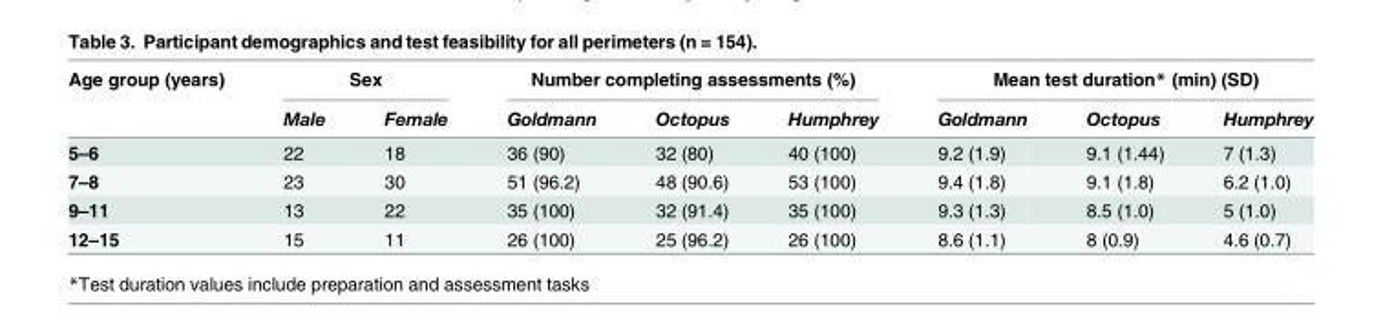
<table><thead><tr><td rowspan="2">Age group (years)</td><td colspan="2">Sex</td><td colspan="3">Number completing assessments (%)</td><td colspan="3">Mean test duration* (min) (SD)</td></tr><tr><td>Male</td><td>Female</td><td>Goldmann</td><td>Octopus</td><td>Humphrey</td><td>Goldmann</td><td>Octopus</td><td>Humphrey</td></tr></thead><tbody><tr><td>5–6</td><td>22</td><td>18</td><td>36 (90)</td><td>32 (80)</td><td>40 (100)</td><td>9.2 (1.9)</td><td>9.1 (1.44)</td><td>7 (1.3)</td></tr><tr><td>7–8</td><td>23</td><td>30</td><td>51 (96.2)</td><td>48 (90.6)</td><td>53 (100)</td><td>9.4 (1.8)</td><td>9.1 (1.8)</td><td>6.2 (1.0)</td></tr><tr><td>9–11</td><td>13</td><td>22</td><td>35 (100)</td><td>32 (91.4)</td><td>35 (100)</td><td>9.3 (1.3)</td><td>8.5 (1.0)</td><td>5 (1.0)</td></tr><tr><td>12–15</td><td>15</td><td>11</td><td>26 (100)</td><td>25 (96.2)</td><td>26 (100)</td><td>8.6 (1.1)</td><td>8 (0.9)</td><td>4.6 (0.7)</td></tr></tbody></table>